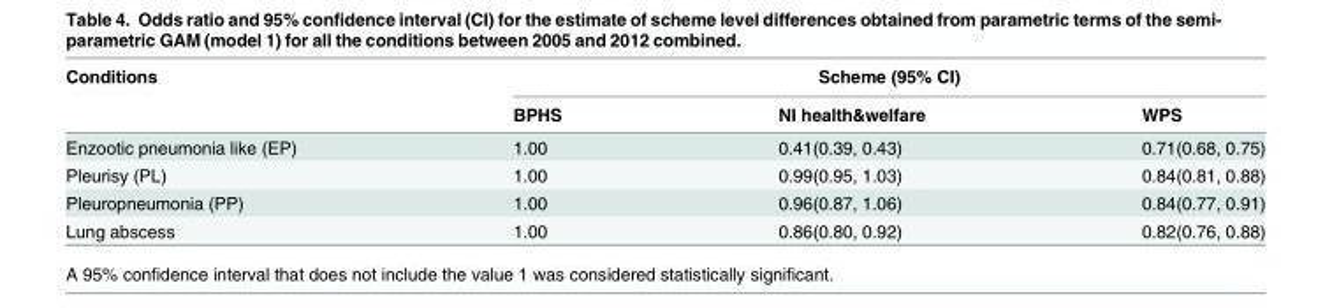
<table><thead><tr><td rowspan="2">Conditions</td><td colspan="3">Scheme (95% CI)</td></tr><tr><td>BPHS</td><td>NI health&amp;welfare</td><td>WPS</td></tr></thead><tbody><tr><td>Enzootic pneumonia like (EP)</td><td>1.00</td><td>0.41(0.39, 0.43)</td><td>0.71(0.68, 0.75)</td></tr><tr><td>Pleurisy (PL)</td><td>1.00</td><td>0.99(0.95, 1.03)</td><td>0.84(0.81, 0.88)</td></tr><tr><td>Pleuropneumonia (PP)</td><td>1.00</td><td>0.96(0.87, 1.06)</td><td>0.84(0.77, 0.91)</td></tr><tr><td>Lung abscess</td><td>1.00</td><td>0.86(0.80, 0.92)</td><td>0.82(0.76, 0.88)</td></tr></tbody></table>